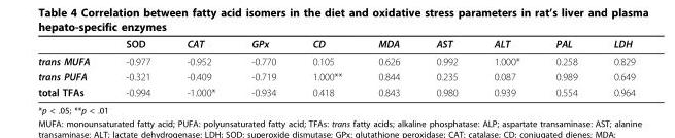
<table><thead><tr><td></td><td>SOD</td><td>CAT</td><td>GPx</td><td>CD</td><td>MDA</td><td>AST</td><td>ALT</td><td>PAL</td><td>LDH</td></tr></thead><tbody><tr><td>trans MUFA</td><td>-0.977</td><td>-0.952</td><td>-0.770</td><td>0.105</td><td>0.626</td><td>0.992</td><td>1.000*</td><td>0.258</td><td>0.829</td></tr><tr><td>trans PUFA</td><td>-0.321</td><td>-0.409</td><td>-0.719</td><td>1.000**</td><td>0.844</td><td>0.235</td><td>0.087</td><td>0.989</td><td>0.649</td></tr><tr><td>total TFAs</td><td>-0.994</td><td>-1.000*</td><td>-0.934</td><td>0.418</td><td>0.843</td><td>0.980</td><td>0.939</td><td>0.554</td><td>0.964</td></tr></tbody></table>